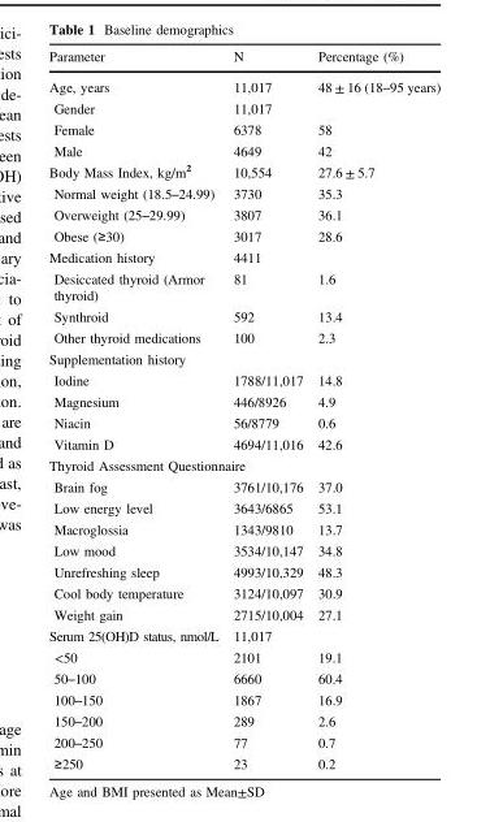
<table><thead><tr><td>Parameter</td><td>N</td><td>Percentage (%)</td></tr></thead><tbody><tr><td>Age, years</td><td>11,017</td><td>48 ± 16 (18–95 years)</td></tr><tr><td>Gender</td><td>11,017</td><td></td></tr><tr><td>Female</td><td>6378</td><td>58</td></tr><tr><td>Male</td><td>4649</td><td>42</td></tr><tr><td>Body Mass Index, kg/m<sup>2</sup></td><td>10,554</td><td>27.6 ± 5.7</td></tr><tr><td>Normal weight (18.5–24.99)</td><td>3730</td><td>35.3</td></tr><tr><td>Overweight (25–29.99)</td><td>3807</td><td>36.1</td></tr><tr><td>Obese (≥30)</td><td>3017</td><td>28.6</td></tr><tr><td>Medication history</td><td>4411</td><td></td></tr><tr><td>Desiccated thyroid (Armor thyroid)</td><td>81</td><td>1.6</td></tr><tr><td>Synthroid</td><td>592</td><td>13.4</td></tr><tr><td>Other thyroid medications</td><td>100</td><td>2.3</td></tr><tr><td colspan="3">Supplementation history</td></tr><tr><td>Iodine</td><td>1788/11,017</td><td>14.8</td></tr><tr><td>Magnesium</td><td>446/8926</td><td>4.9</td></tr><tr><td>Niacin</td><td>56/8779</td><td>0.6</td></tr><tr><td>Vitamin D</td><td>4694/11,016</td><td>42.6</td></tr><tr><td colspan="3">Thyroid Assessment Questionnaire</td></tr><tr><td>Brain fog</td><td>3761/10,176</td><td>37.0</td></tr><tr><td>Low energy level</td><td>3643/6865</td><td>53.1</td></tr><tr><td>Macroglossia</td><td>1343/9810</td><td>13.7</td></tr><tr><td>Low mood</td><td>3534/10,147</td><td>34.8</td></tr><tr><td>Unrefreshing sleep</td><td>4993/10,329</td><td>48.3</td></tr><tr><td>Cool body temperature</td><td>3124/10,097</td><td>30.9</td></tr><tr><td>Weight gain</td><td>2715/10,004</td><td>27.1</td></tr><tr><td>Serum 25(OH)D status, nmol/L</td><td>11,017</td><td></td></tr><tr><td>&lt;50</td><td>2101</td><td>19.1</td></tr><tr><td>50–100</td><td>6660</td><td>60.4</td></tr><tr><td>100–150</td><td>1867</td><td>16.9</td></tr><tr><td>150–200</td><td>289</td><td>2.6</td></tr><tr><td>200–250</td><td>77</td><td>0.7</td></tr><tr><td>≥250</td><td>23</td><td>0.2</td></tr></tbody></table>